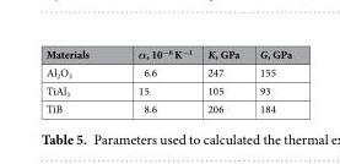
<table><thead><tr><td>Materials</td><td>α, 10<sup>−6</sup> K<sup>−1</sup></td><td>K, GPa</td><td>G, GPa</td></tr></thead><tbody><tr><td>Al<sub>2</sub>O<sub>3</sub></td><td>6.6</td><td>247</td><td>155</td></tr><tr><td>TiAl<sub>3</sub></td><td>15</td><td>105</td><td>93</td></tr><tr><td>TiB</td><td>8.6</td><td>206</td><td>184</td></tr></tbody></table>